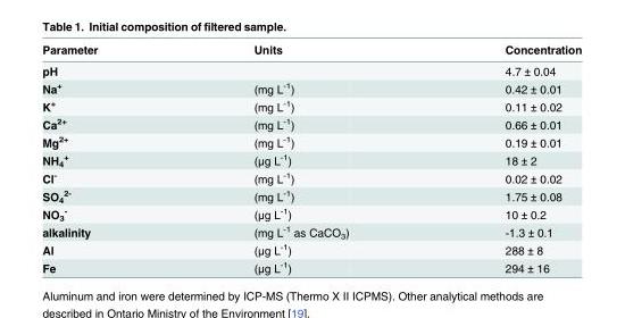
<table><thead><tr><td>Parameter</td><td>Units</td><td>Concentration</td></tr></thead><tbody><tr><td>pH</td><td></td><td>4.7 ± 0.04</td></tr><tr><td>Na<sup>+</sup></td><td>(mg L<sup>-1</sup>)</td><td>0.42 ± 0.01</td></tr><tr><td>K<sup>+</sup></td><td>(mg L<sup>-1</sup>)</td><td>0.11 ± 0.02</td></tr><tr><td>Ca<sup>2+</sup></td><td>(mg L<sup>-1</sup>)</td><td>0.66 ± 0.01</td></tr><tr><td>Mg<sup>2+</sup></td><td>(mg L<sup>-1</sup>)</td><td>0.19 ± 0.01</td></tr><tr><td>NH<sub>4</sub> <sup>+</sup></td><td>(μg L<sup>-1</sup>)</td><td>18 ± 2</td></tr><tr><td>Cl<sup>-</sup></td><td>(mg L<sup>-1</sup>)</td><td>0.02 ± 0.02</td></tr><tr><td>SO<sub>4</sub> <sup>2-</sup></td><td>(mg L<sup>-1</sup>)</td><td>1.75 ± 0.08</td></tr><tr><td>NO<sub>3</sub> <sup>-</sup></td><td>(μg L<sup>-1</sup>)</td><td>10 ± 0.2</td></tr><tr><td>alkalinity</td><td>(mg L<sup>-1</sup> as CaCO<sub>3</sub>)</td><td>-1.3 ± 0.1</td></tr><tr><td>Al</td><td>(μg L<sup>-1</sup>)</td><td>288 ± 8</td></tr><tr><td>Fe</td><td>(μg L<sup>-1</sup>)</td><td>294 ± 16</td></tr></tbody></table>